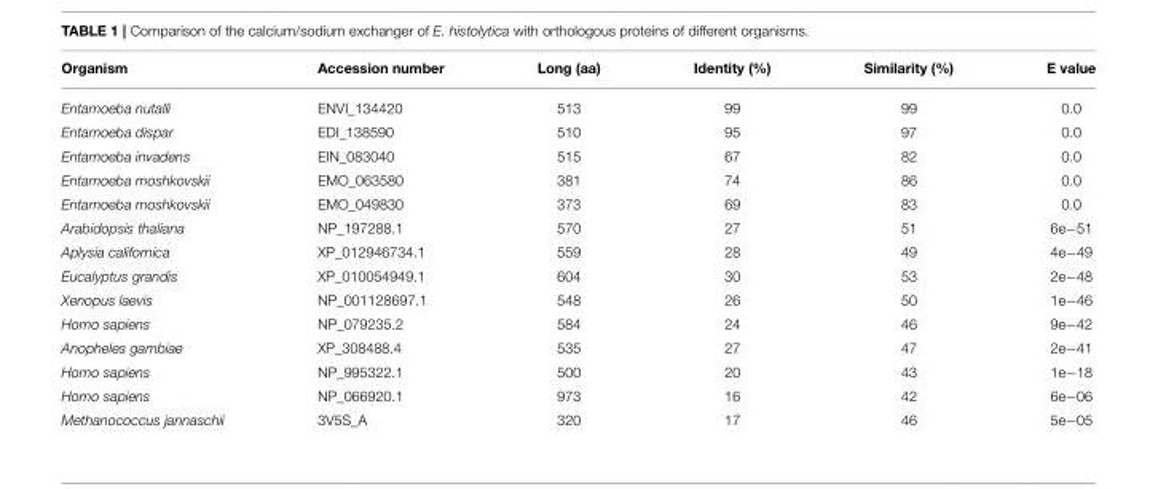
<table><thead><tr><td>Organism</td><td>Accession number</td><td>Long (aa)</td><td>Identity (%)</td><td>Similarity (%)</td><td>E value</td></tr></thead><tbody><tr><td>Entamoeba nutalli</td><td>ENVI_134420</td><td>513</td><td>99</td><td>99</td><td>0.0</td></tr><tr><td>Entamoeba dispar</td><td>EDI_138590</td><td>510</td><td>95</td><td>97</td><td>0.0</td></tr><tr><td>Entamoeba invadens</td><td>EIN_083040</td><td>515</td><td>67</td><td>82</td><td>0.0</td></tr><tr><td>Entamoeba moshkovskii</td><td>EMO_063580</td><td>381</td><td>74</td><td>86</td><td>0.0</td></tr><tr><td>Entamoeba moshkovskii</td><td>EMO_049830</td><td>373</td><td>69</td><td>83</td><td>0.0</td></tr><tr><td>Arabidopsis thaliana</td><td>NP_197288.1</td><td>570</td><td>27</td><td>51</td><td>6e−51</td></tr><tr><td>Aplysia californica</td><td>XP_012946734.1</td><td>559</td><td>28</td><td>49</td><td>4e−49</td></tr><tr><td>Eucalyptus grandis</td><td>XP_010054949.1</td><td>604</td><td>30</td><td>53</td><td>2e−48</td></tr><tr><td>Xenopus laevis</td><td>NP_001128697.1</td><td>548</td><td>26</td><td>50</td><td>1e−46</td></tr><tr><td>Homo sapiens</td><td>NP_079235.2</td><td>584</td><td>24</td><td>46</td><td>9e−42</td></tr><tr><td>Anopheles gambiae</td><td>XP_308488.4</td><td>535</td><td>27</td><td>47</td><td>2e−41</td></tr><tr><td>Homo sapiens</td><td>NP_995322.1</td><td>500</td><td>20</td><td>43</td><td>1e−18</td></tr><tr><td>Homo sapiens</td><td>NP_066920.1</td><td>973</td><td>16</td><td>42</td><td>6e−06</td></tr><tr><td>Methanococcus jannaschii</td><td>3V5S_A</td><td>320</td><td>17</td><td>46</td><td>5e−05</td></tr></tbody></table>